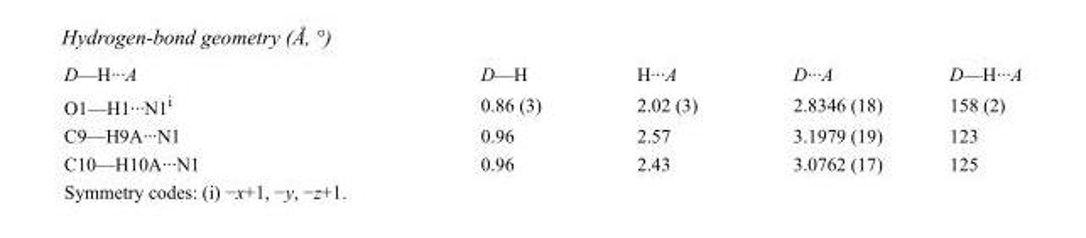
<table><tbody><tr><td>D—H···A</td><td>D—H</td><td>H···A</td><td>D···A</td><td>D—H···A</td></tr><tr><td>O1—H1···N1<sup>i</sup></td><td>0.86 (3)</td><td>2.02 (3)</td><td>2.8346 (18)</td><td>158 (2)</td></tr><tr><td>C9—H9A···N1</td><td>0.96</td><td>2.57</td><td>3.1979 (19)</td><td>123</td></tr><tr><td>C10—H10A···N1</td><td>0.96</td><td>2.43</td><td>3.0762 (17)</td><td>125</td></tr></tbody></table>